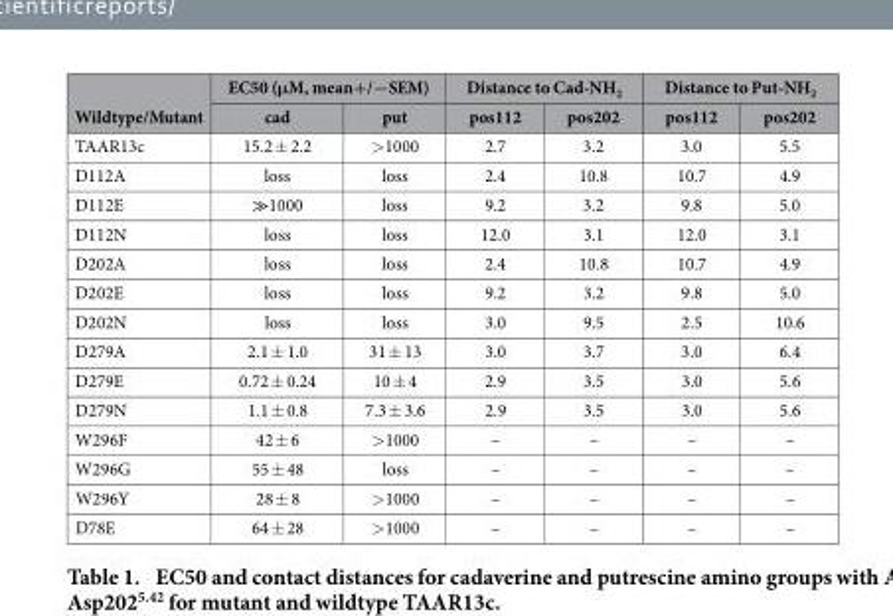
<table><thead><tr><td rowspan="2">Wildtype/Mutant</td><td colspan="2">EC50 (μM, mean+/−SEM)</td><td colspan="2">Distance to Cad-NH<sub>2</sub></td><td colspan="2">Distance to Put-NH<sub>2</sub></td></tr><tr><td>cad</td><td>put</td><td>pos112</td><td>pos202</td><td>pos112</td><td>pos202</td></tr></thead><tbody><tr><td>TAAR13c</td><td>15.2 ± 2.2</td><td>&gt; 1000</td><td>2.7</td><td>3.2</td><td>3.0</td><td>5.5</td></tr><tr><td>D112A</td><td>loss</td><td>loss</td><td>2.4</td><td>10.8</td><td>10.7</td><td>4.9</td></tr><tr><td>D112E</td><td>≫1000</td><td>loss</td><td>9.2</td><td>3.2</td><td>9.8</td><td>5.0</td></tr><tr><td>D112N</td><td>loss</td><td>loss</td><td>12.0</td><td>3.1</td><td>12.0</td><td>3.1</td></tr><tr><td>D202A</td><td>loss</td><td>loss</td><td>2.4</td><td>10.8</td><td>10.7</td><td>4.9</td></tr><tr><td>D202E</td><td>loss</td><td>loss</td><td>9.2</td><td>3.2</td><td>9.8</td><td>5.0</td></tr><tr><td>D202N</td><td>loss</td><td>loss</td><td>3.0</td><td>9.5</td><td>2.5</td><td>10.6</td></tr><tr><td>D279A</td><td>2.1 ± 1.0</td><td>31 ± 13</td><td>3.0</td><td>3.7</td><td>3.0</td><td>6.4</td></tr><tr><td>D279E</td><td>0.72 ± 0.24</td><td>10 ± 4</td><td>2.9</td><td>3.5</td><td>3.0</td><td>5.6</td></tr><tr><td>D279N</td><td>1.1 ± 0.8</td><td>7.3 ± 3.6</td><td>2.9</td><td>3.5</td><td>3.0</td><td>5.6</td></tr><tr><td>W296F</td><td>42 ± 6</td><td>&gt; 1000</td><td>–</td><td>–</td><td>–</td><td>–</td></tr><tr><td>W296G</td><td>55 ± 48</td><td>loss</td><td>–</td><td>–</td><td>–</td><td>–</td></tr><tr><td>W296Y</td><td>28 ± 8</td><td>&gt; 1000</td><td>–</td><td>–</td><td>–</td><td>–</td></tr><tr><td>D78E</td><td>64 ± 28</td><td>&gt; 1000</td><td>–</td><td>–</td><td>–</td><td>–</td></tr></tbody></table>